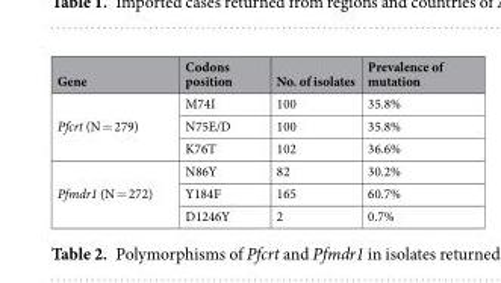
<table><thead><tr><td>Gene</td><td>Codons position</td><td>No. of isolates</td><td>Prevalence of mutation</td></tr></thead><tbody><tr><td rowspan="3">Pfcrt (N = 279)</td><td>M74I</td><td>100</td><td>35.8%</td></tr><tr><td>N75E/D</td><td>100</td><td>35.8%</td></tr><tr><td>K76T</td><td>102</td><td>36.6%</td></tr><tr><td rowspan="3">Pfmdr1 (N = 272)</td><td>N86Y</td><td>82</td><td>30.2%</td></tr><tr><td>Y184F</td><td>165</td><td>60.7%</td></tr><tr><td>D1246Y</td><td>2</td><td>0.7%</td></tr></tbody></table>